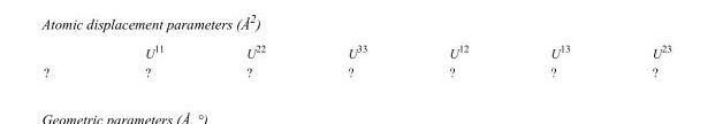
<table><thead><tr><td></td><td>U<sup>11</sup></td><td>U<sup>22</sup></td><td>U<sup>33</sup></td><td>U<sup>12</sup></td><td>U<sup>13</sup></td><td>U<sup>23</sup></td></tr></thead><tbody><tr><td>?</td><td>?</td><td>?</td><td>?</td><td>?</td><td>?</td><td>?</td></tr></tbody></table>